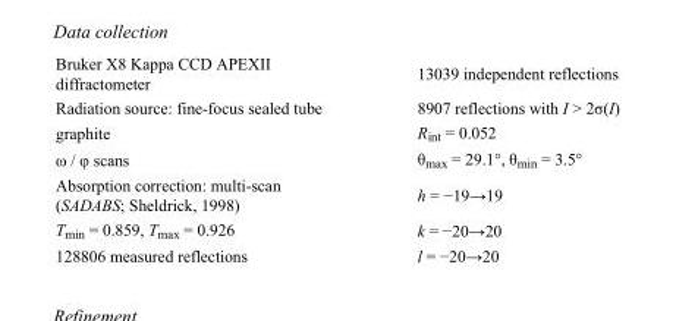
<table><tbody><tr><td>Bruker X8 Kappa CCD APEXII diffractometer</td><td>13039 independent reflections</td></tr><tr><td>Radiation source: fine-focus sealed tube</td><td>8907 reflections with I &gt; 2σ(I)</td></tr><tr><td>graphite</td><td>R<sub>int</sub> = 0.052</td></tr><tr><td>ω / φ scans</td><td>θ<sub>max</sub> = 29.1°, θ<sub>min</sub> = 3.5°</td></tr><tr><td>Absorption correction: multi-scan (SADABS; Sheldrick, 1998)</td><td>h = −19→19</td></tr><tr><td>T<sub>min</sub> = 0.859, T<sub>max</sub> = 0.926</td><td>k = −20→20</td></tr><tr><td>128806 measured reflections</td><td>l = −20→20</td></tr></tbody></table>